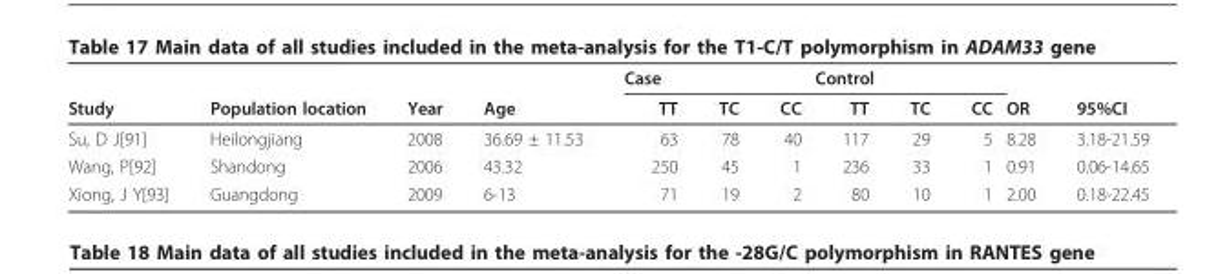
<table><thead><tr><td rowspan="2">Study</td><td rowspan="2">Population location</td><td rowspan="2">Year</td><td rowspan="2">Age</td><td colspan="3">Case</td><td colspan="3">Control</td><td rowspan="2">OR</td><td rowspan="2">95%CI</td></tr><tr><td>TT</td><td>TC</td><td>CC</td><td>TT</td><td>TC</td><td>CC</td></tr></thead><tbody><tr><td>Su, D J[91]</td><td>Heilongjiang</td><td>2008</td><td>36.69 ± 11.53</td><td>63</td><td>78</td><td>40</td><td>117</td><td>29</td><td>5</td><td>8.28</td><td>3.18-21.59</td></tr><tr><td>Wang, P[92]</td><td>Shandong</td><td>2006</td><td>43.32</td><td>250</td><td>45</td><td>1</td><td>236</td><td>33</td><td>1</td><td>0.91</td><td>0.06-14.65</td></tr><tr><td>Xiong, J Y[93]</td><td>Guangdong</td><td>2009</td><td>6-13</td><td>71</td><td>19</td><td>2</td><td>80</td><td>10</td><td>1</td><td>2.00</td><td>0.18-22.45</td></tr></tbody></table>